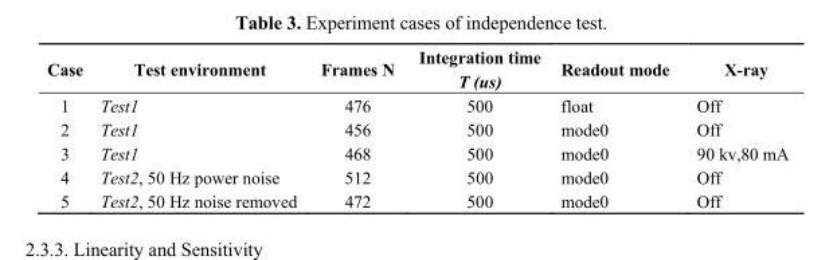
<table><thead><tr><td>Case</td><td>Test environment</td><td>Frames N</td><td>Integration time T (us)</td><td>Readout mode</td><td>X-ray</td></tr></thead><tbody><tr><td>1</td><td>Test1</td><td>476</td><td>500</td><td>float</td><td>Off</td></tr><tr><td>2</td><td>Test1</td><td>456</td><td>500</td><td>mode0</td><td>Off</td></tr><tr><td>3</td><td>Test1</td><td>468</td><td>500</td><td>mode0</td><td>90 kv,80 mA</td></tr><tr><td>4</td><td>Test2, 50 Hz power noise</td><td>512</td><td>500</td><td>mode0</td><td>Off</td></tr><tr><td>5</td><td>Test2, 50 Hz noise removed</td><td>472</td><td>500</td><td>mode0</td><td>Off</td></tr></tbody></table>